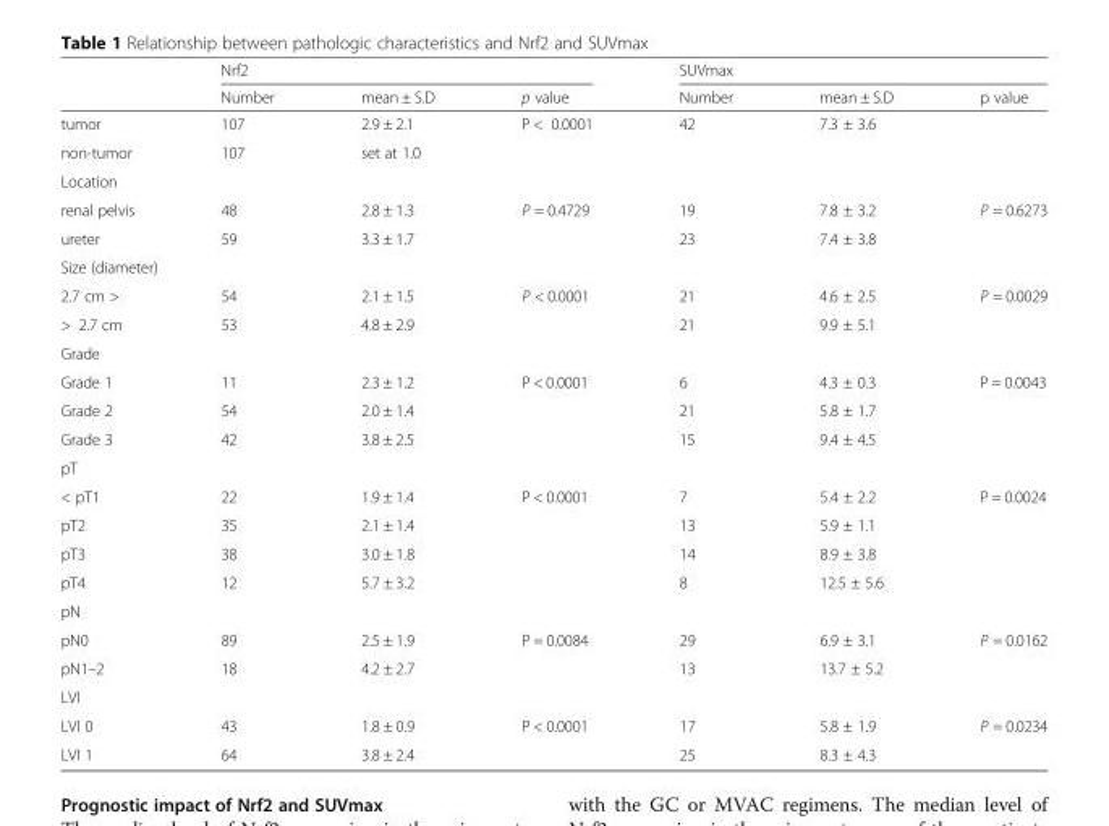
<table><thead><tr><td rowspan="2"></td><td colspan="3">Nrf2</td><td colspan="3">SUVmax</td></tr><tr><td>Number</td><td>mean ± S.D</td><td>p value</td><td>Number</td><td>mean ± S.D</td><td>p value</td></tr></thead><tbody><tr><td>tumor</td><td>107</td><td>2.9 ± 2.1</td><td rowspan="2">P &lt; 0.0001</td><td>42</td><td>7.3 ± 3.6</td><td rowspan="2"></td></tr><tr><td>non-tumor</td><td>107</td><td>set at 1.0</td><td></td><td></td></tr><tr><td colspan="7">Location</td></tr><tr><td>renal pelvis</td><td>48</td><td>2.8 ± 1.3</td><td rowspan="2">P = 0.4729</td><td>19</td><td>7.8 ± 3.2</td><td rowspan="2">P = 0.6273</td></tr><tr><td>ureter</td><td>59</td><td>3.3 ± 1.7</td><td>23</td><td>7.4 ± 3.8</td></tr><tr><td colspan="7">Size (diameter)</td></tr><tr><td>2.7 cm &gt;</td><td>54</td><td>2.1 ± 1.5</td><td rowspan="2">P &lt; 0.0001</td><td>21</td><td>4.6 ± 2.5</td><td rowspan="2">P = 0.0029</td></tr><tr><td>&gt; 2.7 cm</td><td>53</td><td>4.8 ± 2.9</td><td>21</td><td>9.9 ± 5.1</td></tr><tr><td colspan="7">Grade</td></tr><tr><td>Grade 1</td><td>11</td><td>2.3 ± 1.2</td><td rowspan="3">P &lt; 0.0001</td><td>6</td><td>4.3 ± 0.3</td><td rowspan="3">P = 0.0043</td></tr><tr><td>Grade 2</td><td>54</td><td>2.0 ± 1.4</td><td>21</td><td>5.8 ± 1.7</td></tr><tr><td>Grade 3</td><td>42</td><td>3.8 ± 2.5</td><td>15</td><td>9.4 ± 4.5</td></tr><tr><td colspan="7">pT</td></tr><tr><td>&lt; pT1</td><td>22</td><td>1.9 ± 1.4</td><td rowspan="4">P &lt; 0.0001</td><td>7</td><td>5.4 ± 2.2</td><td rowspan="4">P = 0.0024</td></tr><tr><td>pT2</td><td>35</td><td>2.1 ± 1.4</td><td>13</td><td>5.9 ± 1.1</td></tr><tr><td>pT3</td><td>38</td><td>3.0 ± 1.8</td><td>14</td><td>8.9 ± 3.8</td></tr><tr><td>pT4</td><td>12</td><td>5.7 ± 3.2</td><td>8</td><td>12.5 ± 5.6</td></tr><tr><td colspan="7">pN</td></tr><tr><td>pN0</td><td>89</td><td>2.5 ± 1.9</td><td rowspan="2">P = 0.0084</td><td>29</td><td>6.9 ± 3.1</td><td rowspan="2">P = 0.0162</td></tr><tr><td>pN1–2</td><td>18</td><td>4.2 ± 2.7</td><td>13</td><td>13.7 ± 5.2</td></tr><tr><td colspan="7">LVI</td></tr><tr><td>LVI 0</td><td>43</td><td>1.8 ± 0.9</td><td rowspan="2">P &lt; 0.0001</td><td>17</td><td>5.8 ± 1.9</td><td rowspan="2">P = 0.0234</td></tr><tr><td>LVI 1</td><td>64</td><td>3.8 ± 2.4</td><td>25</td><td>8.3 ± 4.3</td></tr></tbody></table>